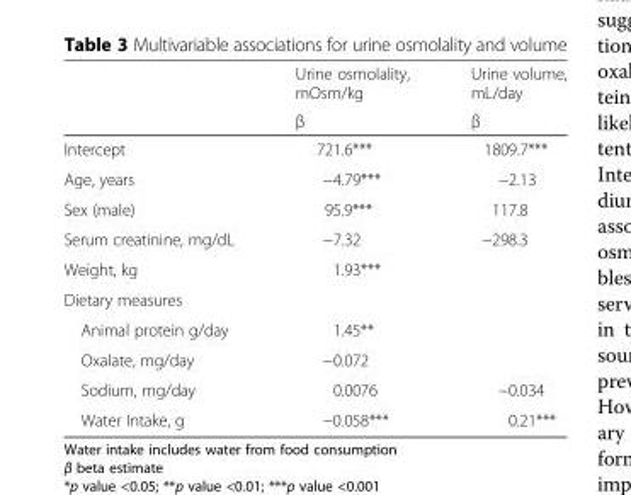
<table><thead><tr><td rowspan="2"></td><td rowspan="2">Urine osmolality, mOsm/kg β</td><td rowspan="2">Urine volume, mL/day β</td></tr><tr></tr></thead><tbody><tr><td>Intercept</td><td>721.6***</td><td>1809.7***</td></tr><tr><td>Age, years</td><td>−4.79***</td><td>−2.13</td></tr><tr><td>Sex (male)</td><td>95.9***</td><td>117.8</td></tr><tr><td>Serum creatinine, mg/dL</td><td>−7.32</td><td>−298.3</td></tr><tr><td>Weight, kg</td><td>1.93***</td><td></td></tr><tr><td colspan="3">Dietary measures</td></tr><tr><td>Animal protein g/day</td><td>1.45**</td><td></td></tr><tr><td>Oxalate, mg/day</td><td>−0.072</td><td></td></tr><tr><td>Sodium, mg/day</td><td>0.0076</td><td>−0.034</td></tr><tr><td>Water Intake, g</td><td>−0.058***</td><td>0.21***</td></tr></tbody></table>